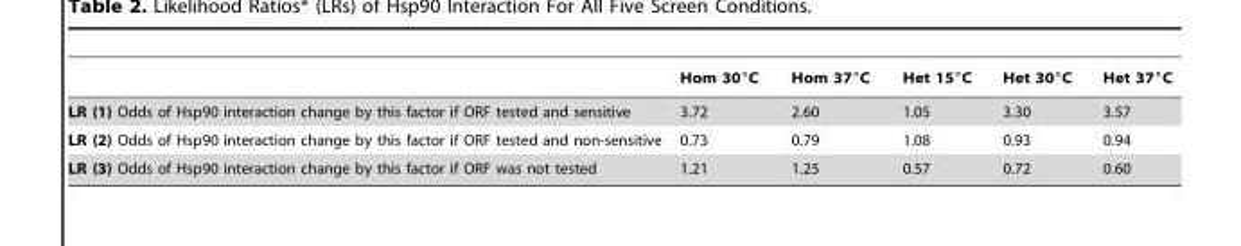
<table><thead><tr><td></td><td>Hom 30°C</td><td>Hom 37°C</td><td>Het 15°C</td><td>Het 30°C</td><td>Het 37°C</td></tr></thead><tbody><tr><td>LR (1) Odds of Hsp90 interaction change by this factor if ORF tested and sensitive</td><td>3.72</td><td>2.60</td><td>1.05</td><td>3.30</td><td>3.57</td></tr><tr><td>LR (2) Odds of Hsp90 interaction change by this factor if ORF tested and non-sensitive</td><td>0.73</td><td>0.79</td><td>1.08</td><td>0.93</td><td>0.94</td></tr><tr><td>LR (3) Odds of Hsp90 interaction change by this factor if ORF was not tested</td><td>1.21</td><td>1.25</td><td>0.57</td><td>0.72</td><td>0.60</td></tr></tbody></table>